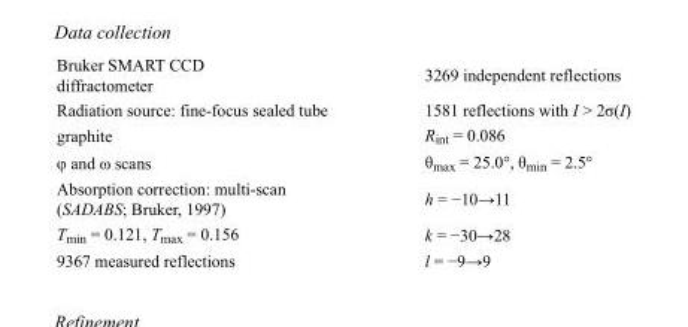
<table><tbody><tr><td>Bruker SMART CCD diffractometer</td><td>3269 independent reflections</td></tr><tr><td>Radiation source: fine-focus sealed tube</td><td>1581 reflections with I &gt; 2σ(I)</td></tr><tr><td>graphite</td><td>R<sub>int</sub> = 0.086</td></tr><tr><td>φ and ω scans</td><td>θ<sub>max</sub> = 25.0°, θ<sub>min</sub> = 2.5°</td></tr><tr><td>Absorption correction: multi-scan (SADABS; Bruker, 1997)</td><td>h = −10→11</td></tr><tr><td>T<sub>min</sub> = 0.121, T<sub>max</sub> = 0.156</td><td>k = −30→28</td></tr><tr><td>9367 measured reflections</td><td>l = −9→9</td></tr></tbody></table>